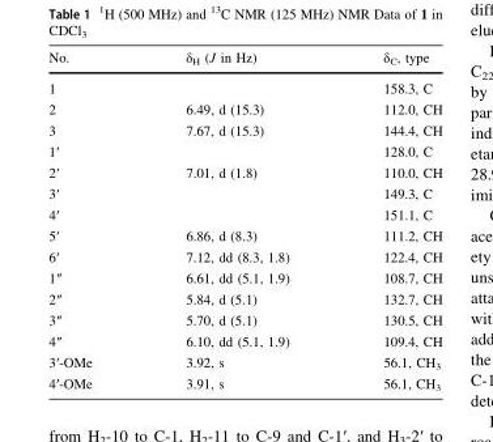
<table><thead><tr><td>No.</td><td>δ<sub>H</sub> (J in Hz)</td><td>δ<sub>C</sub>, type</td></tr></thead><tbody><tr><td>1</td><td></td><td>158.3, C</td></tr><tr><td>2</td><td>6.49, d (15.3)</td><td>112.0, CH</td></tr><tr><td>3</td><td>7.67, d (15.3)</td><td>144.4, CH</td></tr><tr><td>1′</td><td></td><td>128.0, C</td></tr><tr><td>2′</td><td>7.01, d (1.8)</td><td>110.0, CH</td></tr><tr><td>3′</td><td></td><td>149.3, C</td></tr><tr><td>4′</td><td></td><td>151.1, C</td></tr><tr><td>5′</td><td>6.86, d (8.3)</td><td>111.2, CH</td></tr><tr><td>6′</td><td>7.12, dd (8.3, 1.8)</td><td>122.4, CH</td></tr><tr><td>1″</td><td>6.61, dd (5.1, 1.9)</td><td>108.7, CH</td></tr><tr><td>2″</td><td>5.84, d (5.1)</td><td>132.7, CH</td></tr><tr><td>3″</td><td>5.70, d (5.1)</td><td>130.5, CH</td></tr><tr><td>4″</td><td>6.10, dd (5.1, 1.9)</td><td>109.4, CH</td></tr><tr><td>3′-OMe</td><td>3.92, s</td><td>56.1, CH<sub>3</sub></td></tr><tr><td>4′-OMe</td><td>3.91, s</td><td>56.1, CH<sub>3</sub></td></tr></tbody></table>